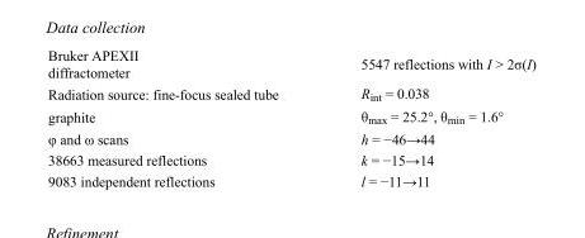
<table><tbody><tr><td>Bruker APEXII diffractometer</td><td>5547 reflections with I &gt; 2σ(I)</td></tr><tr><td>Radiation source: fine-focus sealed tube</td><td>R<sub>int</sub> = 0.038</td></tr><tr><td>graphite</td><td>θ<sub>max</sub> = 25.2°, θ<sub>min</sub> = 1.6°</td></tr><tr><td>φ and ω scans</td><td>h = −46→44</td></tr><tr><td>38663 measured reflections</td><td>k = −15→14</td></tr><tr><td>9083 independent reflections</td><td>l = −11→11</td></tr></tbody></table>